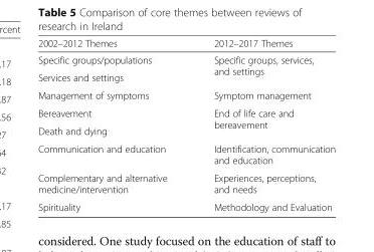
<table><thead><tr><td>2002–2012 Themes</td><td>2012–2017 Themes</td></tr></thead><tbody><tr><td>Specific groups/populations</td><td rowspan="2">Specific groups, services, and settings</td></tr><tr><td>Services and settings</td></tr><tr><td>Management of symptoms</td><td>Symptom management</td></tr><tr><td>Bereavement</td><td rowspan="2">End of life care and bereavement</td></tr><tr><td>Death and dying</td></tr><tr><td>Communication and education</td><td>Identification, communication and education</td></tr><tr><td>Complementary and alternative medicine/intervention</td><td>Experiences, perceptions, and needs</td></tr><tr><td>Spirituality</td><td>Methodology and Evaluation</td></tr></tbody></table>